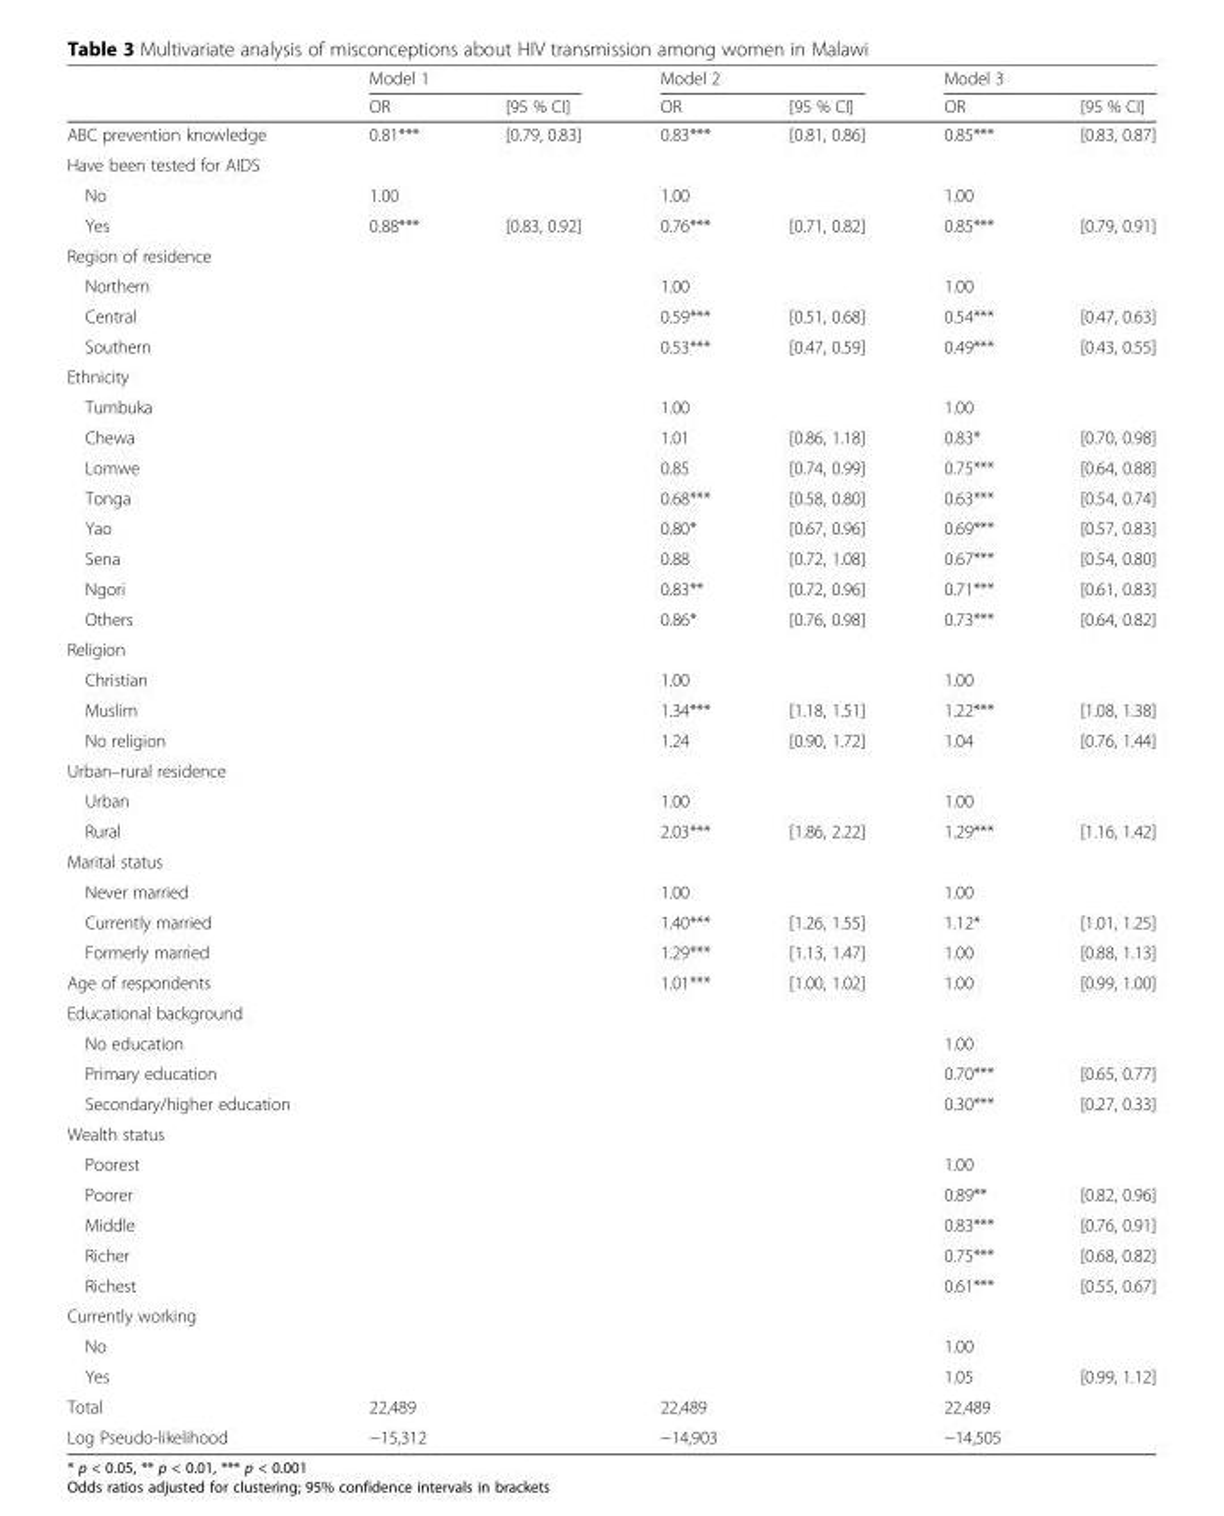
<table><thead><tr><td rowspan="2"></td><td colspan="2">Model 1</td><td colspan="2">Model 2</td><td colspan="2">Model 3</td></tr><tr><td>OR</td><td>[95 % CI]</td><td>OR</td><td>[95 % CI]</td><td>OR</td><td>[95 % CI]</td></tr></thead><tbody><tr><td>ABC prevention knowledge</td><td>0.81***</td><td>[0.79, 0.83]</td><td>0.83***</td><td>[0.81, 0.86]</td><td>0.85***</td><td>[0.83, 0.87]</td></tr><tr><td colspan="7">Have been tested for AIDS</td></tr><tr><td>No</td><td>1.00</td><td></td><td colspan="2">1.00</td><td colspan="2">1.00</td></tr><tr><td>Yes</td><td>0.88***</td><td>[0.83, 0.92]</td><td>0.76***</td><td>[0.71, 0.82]</td><td>0.85***</td><td>[0.79, 0.91]</td></tr><tr><td colspan="7">Region of residence</td></tr><tr><td>Northern</td><td></td><td></td><td colspan="2">1.00</td><td colspan="2">1.00</td></tr><tr><td>Central</td><td></td><td></td><td>0.59***</td><td>[0.51, 0.68]</td><td>0.54***</td><td>[0.47, 0.63]</td></tr><tr><td>Southern</td><td></td><td></td><td>0.53***</td><td>[0.47, 0.59]</td><td>0.49***</td><td>[0.43, 0.55]</td></tr><tr><td colspan="7">Ethnicity</td></tr><tr><td>Tumbuka</td><td></td><td></td><td colspan="2">1.00</td><td colspan="2">1.00</td></tr><tr><td>Chewa</td><td></td><td></td><td>1.01</td><td>[0.86, 1.18]</td><td>0.83*</td><td>[0.70, 0.98]</td></tr><tr><td>Lomwe</td><td></td><td></td><td>0.85</td><td>[0.74, 0.99]</td><td>0.75***</td><td>[0.64, 0.88]</td></tr><tr><td>Tonga</td><td></td><td></td><td>0.68***</td><td>[0.58, 0.80]</td><td>0.63***</td><td>[0.54, 0.74]</td></tr><tr><td>Yao</td><td></td><td></td><td>0.80*</td><td>[0.67, 0.96]</td><td>0.69***</td><td>[0.57, 0.83]</td></tr><tr><td>Sena</td><td></td><td></td><td>0.88</td><td>[0.72, 1.08]</td><td>0.67***</td><td>[0.54, 0.80]</td></tr><tr><td>Ngori</td><td></td><td></td><td>0.83**</td><td>[0.72, 0.96]</td><td>0.71***</td><td>[0.61, 0.83]</td></tr><tr><td>Others</td><td></td><td></td><td>0.86*</td><td>[0.76, 0.98]</td><td>0.73***</td><td>[0.64, 0.82]</td></tr><tr><td colspan="7">Religion</td></tr><tr><td>Christian</td><td></td><td></td><td colspan="2">1.00</td><td colspan="2">1.00</td></tr><tr><td>Muslim</td><td></td><td></td><td>1.34***</td><td>[1.18, 1.51]</td><td>1.22***</td><td>[1.08, 1.38]</td></tr><tr><td>No religion</td><td></td><td></td><td>1.24</td><td>[0.90, 1.72]</td><td>1.04</td><td>[0.76, 1.44]</td></tr><tr><td colspan="7">Urban–rural residence</td></tr><tr><td>Urban</td><td></td><td></td><td colspan="2">1.00</td><td colspan="2">1.00</td></tr><tr><td>Rural</td><td></td><td></td><td>2.03***</td><td>[1.86, 2.22]</td><td>1.29***</td><td>[1.16, 1.42]</td></tr><tr><td colspan="7">Marital status</td></tr><tr><td>Never married</td><td></td><td></td><td colspan="2">1.00</td><td colspan="2">1.00</td></tr><tr><td>Currently married</td><td></td><td></td><td>1.40***</td><td>[1.26, 1.55]</td><td>1.12*</td><td>[1.01, 1.25]</td></tr><tr><td>Formerly married</td><td></td><td></td><td>1.29***</td><td>[1.13, 1.47]</td><td>1.00</td><td>[0.88, 1.13]</td></tr><tr><td>Age of respondents</td><td></td><td></td><td>1.01***</td><td>[1.00, 1.02]</td><td>1.00</td><td>[0.99, 1.00]</td></tr><tr><td colspan="7">Educational background</td></tr><tr><td>No education</td><td></td><td></td><td></td><td></td><td colspan="2">1.00</td></tr><tr><td>Primary education</td><td></td><td></td><td></td><td></td><td>0.70***</td><td>[0.65, 0.77]</td></tr><tr><td>Secondary/higher education</td><td></td><td></td><td></td><td></td><td>0.30***</td><td>[0.27, 0.33]</td></tr><tr><td colspan="7">Wealth status</td></tr><tr><td>Poorest</td><td></td><td></td><td></td><td></td><td colspan="2">1.00</td></tr><tr><td>Poorer</td><td></td><td></td><td></td><td></td><td>0.89**</td><td>[0.82, 0.96]</td></tr><tr><td>Middle</td><td></td><td></td><td></td><td></td><td>0.83***</td><td>[0.76, 0.91]</td></tr><tr><td>Richer</td><td></td><td></td><td></td><td></td><td>0.75***</td><td>[0.68, 0.82]</td></tr><tr><td>Richest</td><td></td><td></td><td></td><td></td><td>0.61***</td><td>[0.55, 0.67]</td></tr><tr><td colspan="7">Currently working</td></tr><tr><td>No</td><td></td><td></td><td></td><td></td><td colspan="2">1.00</td></tr><tr><td>Yes</td><td></td><td></td><td></td><td></td><td>1.05</td><td>[0.99, 1.12]</td></tr><tr><td>Total</td><td>22,489</td><td></td><td colspan="2">22,489</td><td>22,489</td><td></td></tr><tr><td>Log Pseudo-likelihood</td><td>−15,312</td><td></td><td colspan="2">−14,903</td><td>−14,505</td><td></td></tr></tbody></table>